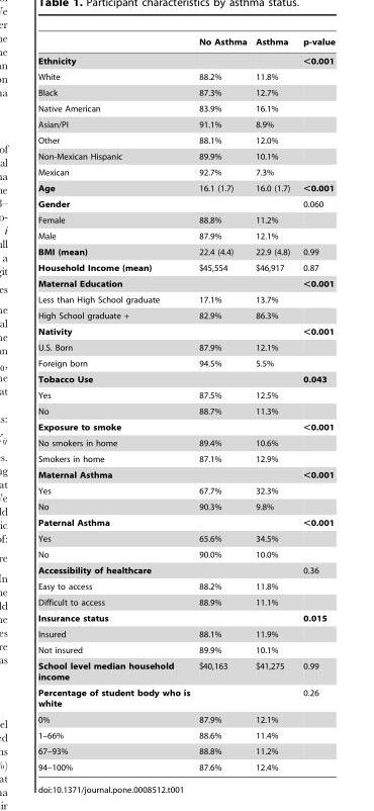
<table><thead><tr><td></td><td>No Asthma</td><td>Asthma</td><td>p-value</td></tr></thead><tbody><tr><td>Ethnicity</td><td></td><td></td><td>&lt;0.001</td></tr><tr><td>White</td><td>88.2%</td><td>11.8%</td><td></td></tr><tr><td>Black</td><td>87.3%</td><td>12.7%</td><td></td></tr><tr><td>Native American</td><td>83.9%</td><td>16.1%</td><td></td></tr><tr><td>Asian/PI</td><td>91.1%</td><td>8.9%</td><td></td></tr><tr><td>Other</td><td>88.1%</td><td>12.0%</td><td></td></tr><tr><td>Non-Mexican Hispanic</td><td>89.9%</td><td>10.1%</td><td></td></tr><tr><td>Mexican</td><td>92.7%</td><td>7.3%</td><td></td></tr><tr><td>Age</td><td>16.1 (1.7)</td><td>16.0 (1.7)</td><td>&lt;0.001</td></tr><tr><td>Gender</td><td></td><td></td><td>0.060</td></tr><tr><td>Female</td><td>88.8%</td><td>11.2%</td><td></td></tr><tr><td>Male</td><td>87.9%</td><td>12.1%</td><td></td></tr><tr><td>BMI (mean)</td><td>22.4 (4.4)</td><td>22.9 (4.8)</td><td>0.99</td></tr><tr><td>Household Income (mean)</td><td>$45,554</td><td>$46,917</td><td>0.87</td></tr><tr><td>Maternal Education</td><td></td><td></td><td>&lt;0.001</td></tr><tr><td>Less than High School graduate</td><td>17.1%</td><td>13.7%</td><td></td></tr><tr><td>High School graduate +</td><td>82.9%</td><td>86.3%</td><td></td></tr><tr><td>Nativity</td><td></td><td></td><td>&lt;0.001</td></tr><tr><td>U.S. Born</td><td>87.9%</td><td>12.1%</td><td></td></tr><tr><td>Foreign born</td><td>94.5%</td><td>5.5%</td><td></td></tr><tr><td>Tobacco Use</td><td></td><td></td><td>0.043</td></tr><tr><td>Yes</td><td>87.5%</td><td>12.5%</td><td></td></tr><tr><td>No</td><td>88.7%</td><td>11.3%</td><td></td></tr><tr><td>Exposure to smoke</td><td></td><td></td><td>&lt;0.001</td></tr><tr><td>No smokers in home</td><td>89.4%</td><td>10.6%</td><td></td></tr><tr><td>Smokers in home</td><td>87.1%</td><td>12.9%</td><td></td></tr><tr><td>Maternal Asthma</td><td></td><td></td><td>&lt;0.001</td></tr><tr><td>Yes</td><td>67.7%</td><td>32.3%</td><td></td></tr><tr><td>No</td><td>90.3%</td><td>9.8%</td><td></td></tr><tr><td>Paternal Asthma</td><td></td><td></td><td>&lt;0.001</td></tr><tr><td>Yes</td><td>65.6%</td><td>34.5%</td><td></td></tr><tr><td>No</td><td>90.0%</td><td>10.0%</td><td></td></tr><tr><td>Accessibility of healthcare</td><td></td><td></td><td>0.36</td></tr><tr><td>Easy to access</td><td>88.2%</td><td>11.8%</td><td></td></tr><tr><td>Difficult to access</td><td>88.9%</td><td>11.1%</td><td></td></tr><tr><td>Insurance status</td><td></td><td></td><td>0.015</td></tr><tr><td>Insured</td><td>88.1%</td><td>11.9%</td><td></td></tr><tr><td>Not insured</td><td>89.9%</td><td>10.1%</td><td></td></tr><tr><td>School level median household income</td><td>$40,163</td><td>$41,275</td><td>0.99</td></tr><tr><td>Percentage of student body who is white</td><td></td><td></td><td>0.26</td></tr><tr><td>0%</td><td>87.9%</td><td>12.1%</td><td></td></tr><tr><td>1–66%</td><td>88.6%</td><td>11.4%</td><td></td></tr><tr><td>67–93%</td><td>88.8%</td><td>11.2%</td><td></td></tr><tr><td>94–100%</td><td>87.6%</td><td>12.4%</td><td></td></tr></tbody></table>